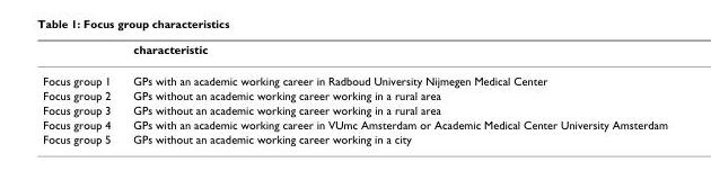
<table><thead><tr><td></td><td>characteristic</td></tr></thead><tbody><tr><td>Focus group 1</td><td>GPs with an academic working career in Radboud University Nijmegen Medical Center</td></tr><tr><td>Focus group 2</td><td>GPs without an academic working career working in a rural area</td></tr><tr><td>Focus group 3</td><td>GPs without an academic working career working in a rural area</td></tr><tr><td>Focus group 4</td><td>GPs with an academic working career in VUmc Amsterdam or Academic Medical Center University Amsterdam</td></tr><tr><td>Focus group 5</td><td>GPs without an academic working career working in a city</td></tr></tbody></table>